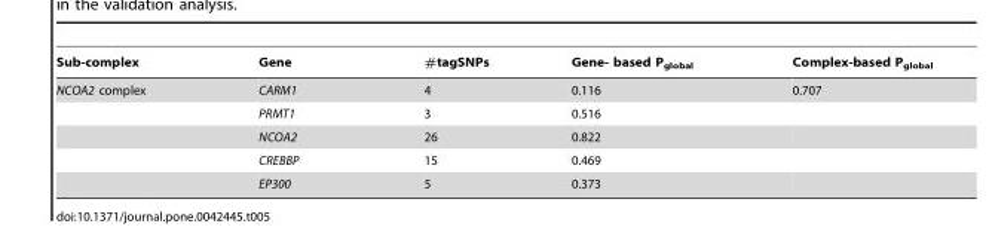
<table><thead><tr><td>Sub-complex</td><td>Gene</td><td>#tagSNPs</td><td>Gene- based P<sub>global</sub></td><td>Complex-based P<sub>global</sub></td></tr></thead><tbody><tr><td rowspan="5">NCOA2 complex</td><td>CARM1</td><td>4</td><td>0.116</td><td>0.707</td></tr><tr><td>PRMT1</td><td>3</td><td>0.516</td><td></td></tr><tr><td>NCOA2</td><td>26</td><td>0.822</td><td></td></tr><tr><td>CREBBP</td><td>15</td><td>0.469</td><td></td></tr><tr><td>EP300</td><td>5</td><td>0.373</td><td></td></tr></tbody></table>